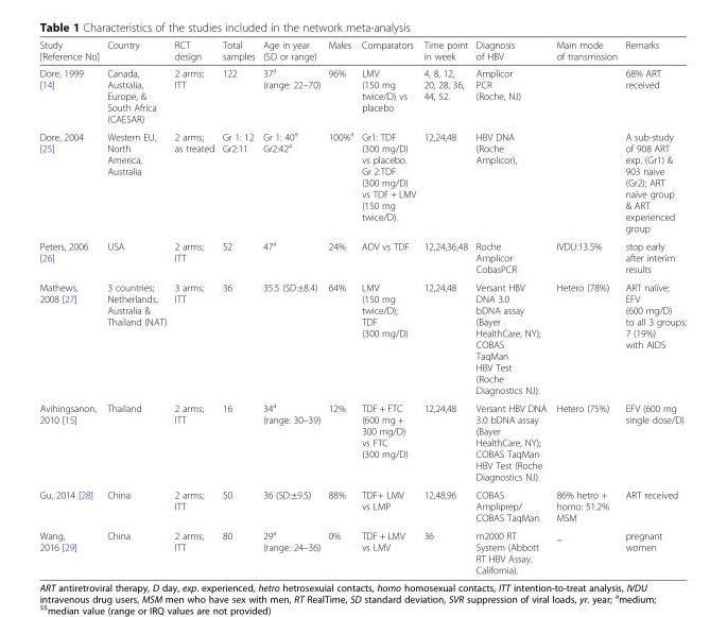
<table><thead><tr><td>Study [Reference No]</td><td>Country</td><td>RCT design</td><td>Total samples</td><td>Age in year (SD or range)</td><td>Males</td><td>Comparators</td><td>Time point in week</td><td>Diagnosis of HBV</td><td>Main mode of transmission</td><td>Remarks</td></tr></thead><tbody><tr><td>Dore, 1999 [14]</td><td>Canada, Australia, Europe, &amp; South Africa (CAESAR)</td><td>2 arms; ITT</td><td>122</td><td>37<sup>a</sup> (range: 22–70)</td><td>96%</td><td>LMV (150 mg twice/D) vs placebo</td><td>4, 8, 12, 20, 28, 36, 44, 52.</td><td>Amplicor PCR (Roche, NJ)</td><td></td><td>68% ART received</td></tr><tr><td>Dore, 2004 [25]</td><td>Western EU, North America, Australia</td><td>2 arms; as treated</td><td>Gr 1: 12 Gr2:11</td><td>Gr 1: 40<sup>a</sup> Gr2:42<sup>a</sup></td><td>100%<sup>a</sup></td><td>Gr1: TDF (300 mg/D) vs placebo. Gr 2:TDF (300 mg/D) vs TDF + LMV (150 mg twice/D).</td><td>12,24,48</td><td>HBV DNA (Roche Amplicor),</td><td></td><td>A sub-study of 908 ART exp. (Gr1) &amp; 903 naive (Gr2); ART naïve group &amp; ART experienced group</td></tr><tr><td>Peters, 2006 [26]</td><td>USA</td><td>2 arms; ITT</td><td>52</td><td>47<sup>a</sup></td><td>24%</td><td>ADV vs TDF</td><td>12,24,36,48</td><td>Roche Amplicor CobasPCR</td><td>IVDU:13.5%</td><td>stop early after interim results</td></tr><tr><td>Mathews, 2008 [27]</td><td>3 countries; Netherlands, Australia &amp; Thailand (NAT)</td><td>3 arms; ITT</td><td>36</td><td>35.5 (SD:±8.4)</td><td>64%</td><td>LMV (150 mg twice/D); TDF (300 mg/D)</td><td>12,24,48</td><td>Versant HBV DNA 3.0 bDNA assay (Bayer HealthCare, NY); COBAS TaqMan HBV Test (Roche Diagnostics NJ).</td><td>Hetero (78%)</td><td>ART naiïve; EFV (600 mg/D) to all 3 groups; 7 (19%) with AIDS</td></tr><tr><td>Avihingsanon, 2010 [15]</td><td>Thailand</td><td>2 arms; ITT</td><td>16</td><td>34<sup>a</sup> (range: 30–39)</td><td>12%</td><td>TDF + FTC (600 mg + 300 mg/D) vs FTC (300 mg/D)</td><td>12,24,48</td><td>Versant HBV DNA 3.0 bDNA assay (Bayer HealthCare, NY); COBAS TaqMan HBV Test (Roche Diagnostics NJ).</td><td>Hetero (75%)</td><td>EFV (600 mg single dose/D)</td></tr><tr><td>Gu, 2014 [28]</td><td>China</td><td>2 arms; ITT</td><td>50</td><td>36 (SD:±9.5)</td><td>88%</td><td>TDF+ LMV vs LMP</td><td>12,48,96</td><td>COBAS Ampliprep/ COBAS TaqMan</td><td>86% hetro + homo: 51.2% MSM</td><td>ART received</td></tr><tr><td>Wang, 2016 [29]</td><td>China</td><td>2 arms; ITT</td><td>80</td><td>29<sup>a</sup> (range: 24–36)</td><td>0%</td><td>TDF + LMV vs LMV</td><td>36</td><td>m2000 RT System (Abbott RT HBV Assay, California),</td><td>_</td><td>pregnant women</td></tr></tbody></table>